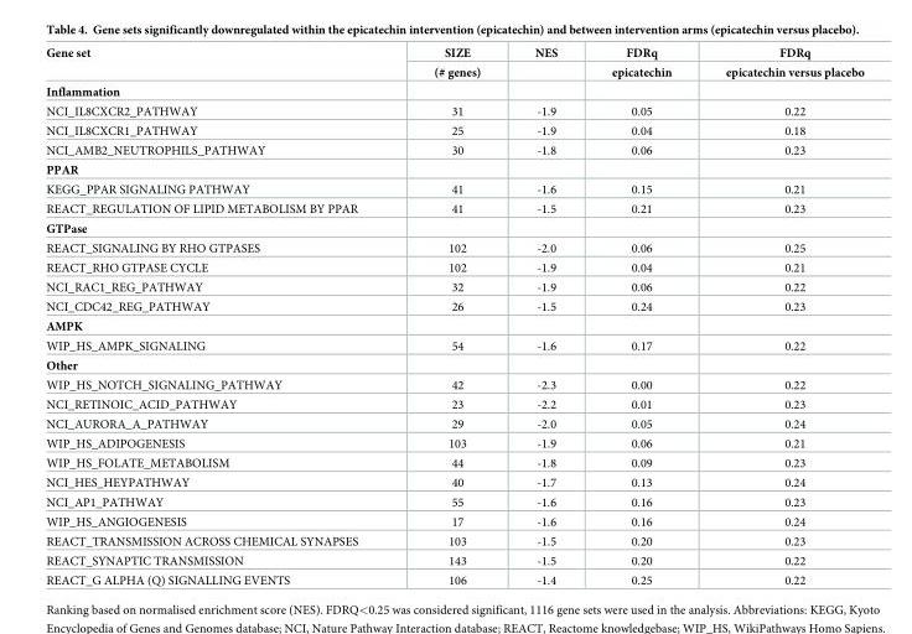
<table><thead><tr><td rowspan="2">Gene set</td><td rowspan="2">SIZE (# genes)</td><td rowspan="2">NES</td><td rowspan="2">FDRq epicatechin</td><td rowspan="2">FDRq epicatechin versus placebo</td></tr><tr></tr></thead><tbody><tr><td colspan="5">Inflammation</td></tr><tr><td>NCI_IL8CXCR2_PATHWAY</td><td>31</td><td>-1.9</td><td>0.05</td><td>0.22</td></tr><tr><td>NCI_IL8CXCR1_PATHWAY</td><td>25</td><td>-1.9</td><td>0.04</td><td>0.18</td></tr><tr><td>NCI_AMB2_NEUTROPHILS_PATHWAY</td><td>30</td><td>-1.8</td><td>0.06</td><td>0.23</td></tr><tr><td colspan="5">PPAR</td></tr><tr><td>KEGG_PPAR SIGNALING PATHWAY</td><td>41</td><td>-1.6</td><td>0.15</td><td>0.21</td></tr><tr><td>REACT_REGULATION OF LIPID METABOLISM BY PPAR</td><td>41</td><td>-1.5</td><td>0.21</td><td>0.23</td></tr><tr><td colspan="5">GTPase</td></tr><tr><td>REACT_SIGNALING BY RHO GTPASES</td><td>102</td><td>-2.0</td><td>0.06</td><td>0.25</td></tr><tr><td>REACT_RHO GTPASE CYCLE</td><td>102</td><td>-1.9</td><td>0.04</td><td>0.21</td></tr><tr><td>NCI_RAC1_REG_PATHWAY</td><td>32</td><td>-1.9</td><td>0.06</td><td>0.22</td></tr><tr><td>NCI_CDC42_REG_PATHWAY</td><td>26</td><td>-1.5</td><td>0.24</td><td>0.23</td></tr><tr><td colspan="5">AMPK</td></tr><tr><td>WIP_HS_AMPK_SIGNALING</td><td>54</td><td>-1.6</td><td>0.17</td><td>0.22</td></tr><tr><td colspan="5">Other</td></tr><tr><td>WIP_HS_NOTCH_SIGNALING_PATHWAY</td><td>42</td><td>-2.3</td><td>0.00</td><td>0.22</td></tr><tr><td>NCI_RETINOIC_ACID_PATHWAY</td><td>23</td><td>-2.2</td><td>0.01</td><td>0.23</td></tr><tr><td>NCI_AURORA_A_PATHWAY</td><td>29</td><td>-2.0</td><td>0.05</td><td>0.24</td></tr><tr><td>WIP_HS_ADIPOGENESIS</td><td>103</td><td>-1.9</td><td>0.06</td><td>0.21</td></tr><tr><td>WIP_HS_FOLATE_METABOLISM</td><td>44</td><td>-1.8</td><td>0.09</td><td>0.23</td></tr><tr><td>NCI_HES_HEYPATHWAY</td><td>40</td><td>-1.7</td><td>0.13</td><td>0.24</td></tr><tr><td>NCI_AP1_PATHWAY</td><td>55</td><td>-1.6</td><td>0.16</td><td>0.23</td></tr><tr><td>WIP_HS_ANGIOGENESIS</td><td>17</td><td>-1.6</td><td>0.16</td><td>0.24</td></tr><tr><td>REACT_TRANSMISSION ACROSS CHEMICAL SYNAPSES</td><td>103</td><td>-1.5</td><td>0.20</td><td>0.23</td></tr><tr><td>REACT_SYNAPTIC TRANSMISSION</td><td>143</td><td>-1.5</td><td>0.20</td><td>0.22</td></tr><tr><td>REACT_G ALPHA (Q) SIGNALLING EVENTS</td><td>106</td><td>-1.4</td><td>0.25</td><td>0.22</td></tr></tbody></table>